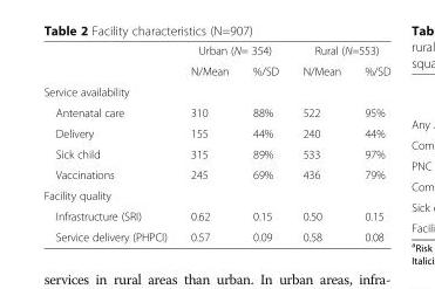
<table><thead><tr><td rowspan="2"></td><td colspan="2">Urban (N= 354)</td><td colspan="2">Rural (N=553)</td></tr><tr><td>N/Mean</td><td>%/SD</td><td>N/Mean</td><td>%/SD</td></tr></thead><tbody><tr><td colspan="5">Service availability</td></tr><tr><td>Antenatal care</td><td>310</td><td>88%</td><td>522</td><td>95%</td></tr><tr><td>Delivery</td><td>155</td><td>44%</td><td>240</td><td>44%</td></tr><tr><td>Sick child</td><td>315</td><td>89%</td><td>533</td><td>97%</td></tr><tr><td>Vaccinations</td><td>245</td><td>69%</td><td>436</td><td>79%</td></tr><tr><td colspan="5">Facility quality</td></tr><tr><td>Infrastructure (SRI)</td><td>0.62</td><td>0.15</td><td>0.50</td><td>0.15</td></tr><tr><td>Service delivery (PHPCI)</td><td>0.57</td><td>0.09</td><td>0.58</td><td>0.08</td></tr></tbody></table>